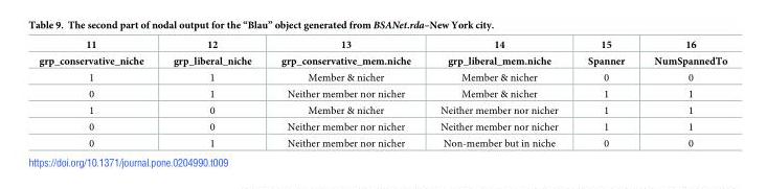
<table><thead><tr><td rowspan="2">11 grp_conservative_niche</td><td rowspan="2">12 grp_liberal_niche</td><td rowspan="2">13 grp_conservative_mem.niche</td><td rowspan="2">14 grp_liberal_mem.niche</td><td rowspan="2">15 Spanner</td><td rowspan="2">16 NumSpannedTo</td></tr><tr></tr></thead><tbody><tr><td>1</td><td>1</td><td>Member &amp; nicher</td><td>Member &amp; nicher</td><td>0</td><td>0</td></tr><tr><td>0</td><td>1</td><td>Neither member nor nicher</td><td>Member &amp; nicher</td><td>1</td><td>1</td></tr><tr><td>1</td><td>0</td><td>Member &amp; nicher</td><td>Neither member nor nicher</td><td>1</td><td>1</td></tr><tr><td>0</td><td>0</td><td>Neither member nor nicher</td><td>Neither member nor nicher</td><td>1</td><td>1</td></tr><tr><td>0</td><td>1</td><td>Neither member nor nicher</td><td>Non-member but in niche</td><td>0</td><td>0</td></tr></tbody></table>